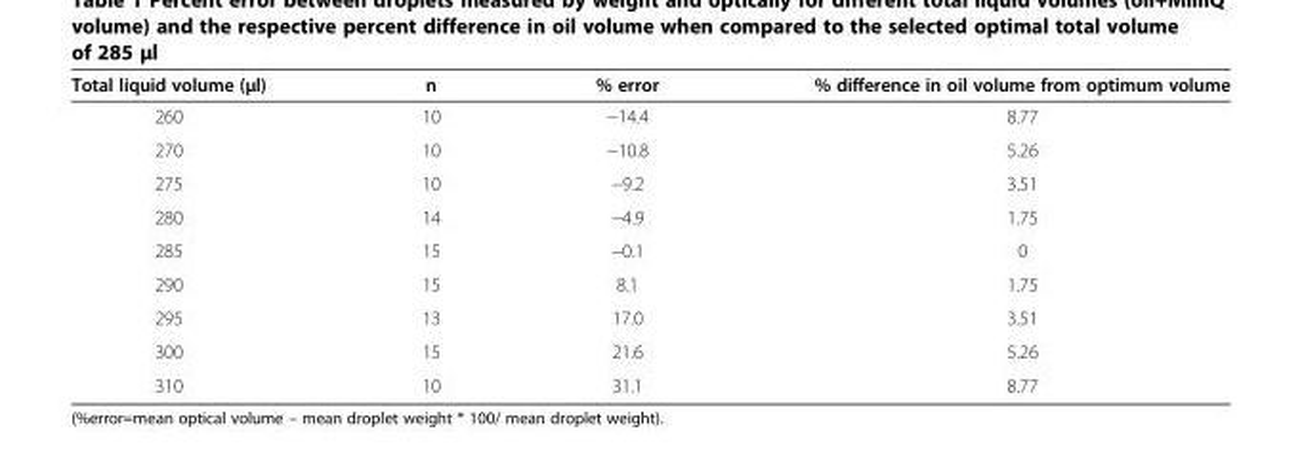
<table><thead><tr><td>Total liquid volume (μl)</td><td>n</td><td>% error</td><td>% difference in oil volume from optimum volume</td></tr></thead><tbody><tr><td>260</td><td>10</td><td>−14.4</td><td>8.77</td></tr><tr><td>270</td><td>10</td><td>−10.8</td><td>5.26</td></tr><tr><td>275</td><td>10</td><td>−9.2</td><td>3.51</td></tr><tr><td>280</td><td>14</td><td>−4.9</td><td>1.75</td></tr><tr><td>285</td><td>15</td><td>−0.1</td><td>0</td></tr><tr><td>290</td><td>15</td><td>8.1</td><td>1.75</td></tr><tr><td>295</td><td>13</td><td>17.0</td><td>3.51</td></tr><tr><td>300</td><td>15</td><td>21.6</td><td>5.26</td></tr><tr><td>310</td><td>10</td><td>31.1</td><td>8.77</td></tr></tbody></table>